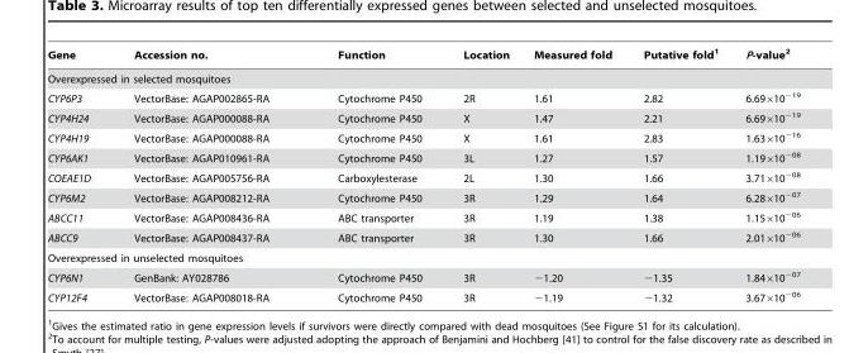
<table><thead><tr><td>Gene</td><td>Accession no.</td><td>Function</td><td>Location</td><td>Measured fold</td><td>Putative fold<sup>1</sup></td><td>P-value<sup>2</sup></td></tr></thead><tbody><tr><td colspan="7">Overexpressed in selected mosquitoes</td></tr><tr><td>CYP6P3</td><td>VectorBase: AGAP002865-RA</td><td>Cytochrome P450</td><td>2R</td><td>1.61</td><td>2.82</td><td>6.69×10<sup>−19</sup></td></tr><tr><td>CYP4H24</td><td>VectorBase: AGAP000088-RA</td><td>Cytochrome P450</td><td>X</td><td>1.47</td><td>2.21</td><td>6.69×10<sup>−19</sup></td></tr><tr><td>CYP4H19</td><td>VectorBase: AGAP000088-RA</td><td>Cytochrome P450</td><td>X</td><td>1.61</td><td>2.83</td><td>1.63×10<sup>−16</sup></td></tr><tr><td>CYP6AK1</td><td>VectorBase: AGAP010961-RA</td><td>Cytochrome P450</td><td>3L</td><td>1.27</td><td>1.57</td><td>1.19×10<sup>−08</sup></td></tr><tr><td>COEAE1D</td><td>VectorBase: AGAP005756-RA</td><td>Carboxylesterase</td><td>2L</td><td>1.30</td><td>1.66</td><td>3.71×10<sup>−08</sup></td></tr><tr><td>CYP6M2</td><td>VectorBase: AGAP008212-RA</td><td>Cytochrome P450</td><td>3R</td><td>1.29</td><td>1.64</td><td>6.28×10<sup>−07</sup></td></tr><tr><td>ABCC11</td><td>VectorBase: AGAP008436-RA</td><td>ABC transporter</td><td>3R</td><td>1.19</td><td>1.38</td><td>1.15×10<sup>−06</sup></td></tr><tr><td>ABCC9</td><td>VectorBase: AGAP008437-RA</td><td>ABC transporter</td><td>3R</td><td>1.30</td><td>1.66</td><td>2.01×10<sup>−06</sup></td></tr><tr><td colspan="7">Overexpressed in unselected mosquitoes</td></tr><tr><td>CYP6N1</td><td>GenBank: AY028786</td><td>Cytochrome P450</td><td>3R</td><td>−1.20</td><td>−1.35</td><td>1.84×10<sup>−07</sup></td></tr><tr><td>CYP12F4</td><td>VectorBase: AGAP008018-RA</td><td>Cytochrome P450</td><td>3R</td><td>−1.19</td><td>−1.32</td><td>3.67×10<sup>−06</sup></td></tr></tbody></table>